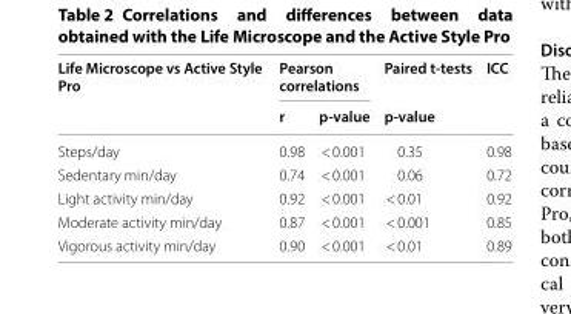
<table><thead><tr><td rowspan="2">Life Microscope vs Active Style Pro</td><td colspan="2">Pearson correlations</td><td rowspan="2">Paired t-tests p-value</td><td rowspan="2">ICC</td></tr><tr><td>r</td><td>p-value</td></tr></thead><tbody><tr><td>Steps/day</td><td>0.98</td><td>&lt; 0.001</td><td>0.35</td><td>0.98</td></tr><tr><td>Sedentary min/day</td><td>0.74</td><td>&lt; 0.001</td><td>0.06</td><td>0.72</td></tr><tr><td>Light activity min/day</td><td>0.92</td><td>&lt; 0.001</td><td>&lt; 0.01</td><td>0.92</td></tr><tr><td>Moderate activity min/day</td><td>0.87</td><td>&lt; 0.001</td><td>&lt; 0.001</td><td>0.85</td></tr><tr><td>Vigorous activity min/day</td><td>0.90</td><td>&lt; 0.001</td><td>&lt; 0.01</td><td>0.89</td></tr></tbody></table>